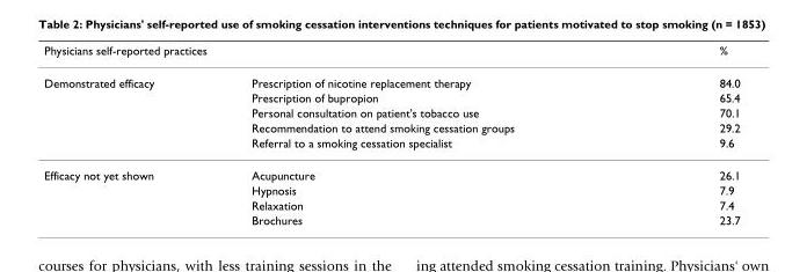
<table><thead><tr><td colspan="2">Physicians self-reported practices</td><td rowspan="2">% 84.0</td></tr><tr><td>Demonstrated efficacy</td><td>Prescription of nicotine replacement therapy</td></tr></thead><tbody><tr><td></td><td>Prescription of bupropion</td><td>65.4</td></tr><tr><td></td><td>Personal consultation on patient&#x27;s tobacco use</td><td>70.1</td></tr><tr><td></td><td>Recommendation to attend smoking cessation groups</td><td>29.2</td></tr><tr><td></td><td>Referral to a smoking cessation specialist</td><td>9.6</td></tr><tr><td rowspan="4">Efficacy not yet shown</td><td>Acupuncture</td><td>26.1</td></tr><tr><td>Hypnosis</td><td>7.9</td></tr><tr><td>Relaxation</td><td>7.4</td></tr><tr><td>Brochures</td><td>23.7</td></tr></tbody></table>